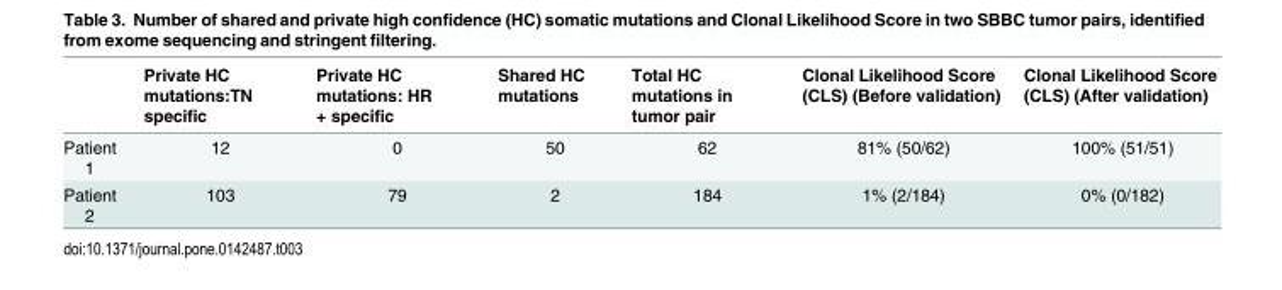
<table><thead><tr><td></td><td>Private HC mutations:TN specific</td><td>Private HC mutations: HR + specific</td><td>Shared HC mutations</td><td>Total HC mutations in tumor pair</td><td>Clonal Likelihood Score (CLS) (Before validation)</td><td>Clonal Likelihood Score (CLS) (After validation)</td></tr></thead><tbody><tr><td>Patient 1</td><td>12</td><td>0</td><td>50</td><td>62</td><td>81% (50/62)</td><td>100% (51/51)</td></tr><tr><td>Patient 2</td><td>103</td><td>79</td><td>2</td><td>184</td><td>1% (2/184)</td><td>0% (0/182)</td></tr></tbody></table>